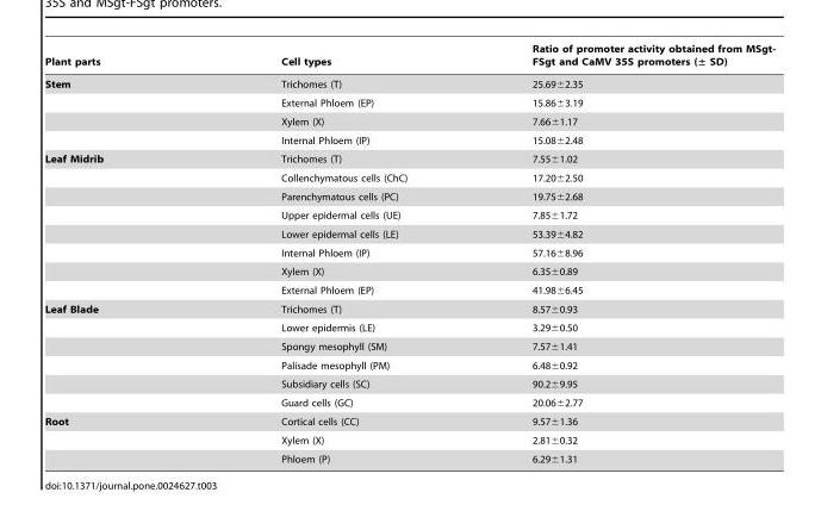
<table><thead><tr><td>Plant parts</td><td>Cell types</td><td>Ratio of promoter activity obtained from MSgt- FSgt and CaMV 35S promoters (± SD)</td></tr></thead><tbody><tr><td rowspan="4">Stem</td><td>Trichomes (T)</td><td>25.69±2.35</td></tr><tr><td>External Phloem (EP)</td><td>15.86±3.19</td></tr><tr><td>Xylem (X)</td><td>7.66±1.17</td></tr><tr><td>Internal Phloem (IP)</td><td>15.08±2.48</td></tr><tr><td rowspan="8">Leaf Midrib</td><td>Trichomes (T)</td><td>7.55±1.02</td></tr><tr><td>Collenchymatous cells (ChC)</td><td>17.20±2.50</td></tr><tr><td>Parenchymatous cells (PC)</td><td>19.75±2.68</td></tr><tr><td>Upper epidermal cells (UE)</td><td>7.85±1.72</td></tr><tr><td>Lower epidermal cells (LE)</td><td>53.39±4.82</td></tr><tr><td>Internal Phloem (IP)</td><td>57.16±8.96</td></tr><tr><td>Xylem (X)</td><td>6.35±0.89</td></tr><tr><td>External Phloem (EP)</td><td>41.98±6.45</td></tr><tr><td rowspan="6">Leaf Blade</td><td>Trichomes (T)</td><td>8.57±0.93</td></tr><tr><td>Lower epidermis (LE)</td><td>3.29±0.50</td></tr><tr><td>Spongy mesophyll (SM)</td><td>7.57±1.41</td></tr><tr><td>Palisade mesophyll (PM)</td><td>6.48±0.92</td></tr><tr><td>Subsidiary cells (SC)</td><td>90.2±9.95</td></tr><tr><td>Guard cells (GC)</td><td>20.06±2.77</td></tr><tr><td rowspan="3">Root</td><td>Cortical cells (CC)</td><td>9.57±1.36</td></tr><tr><td>Xylem (X)</td><td>2.81±0.32</td></tr><tr><td>Phloem (P)</td><td>6.29±1.31</td></tr></tbody></table>